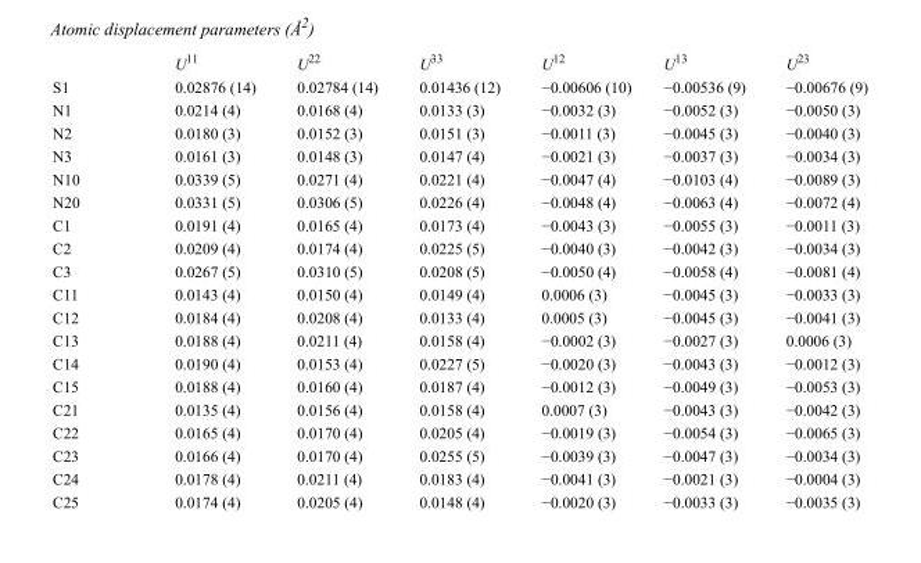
<table><thead><tr><td></td><td>U<sup>11</sup></td><td>U<sup>22</sup></td><td>U<sup>33</sup></td><td>U<sup>12</sup></td><td>U<sup>13</sup></td><td>U<sup>23</sup></td></tr></thead><tbody><tr><td>S1</td><td>0.02876 (14)</td><td>0.02784 (14)</td><td>0.01436 (12)</td><td>−0.00606 (10)</td><td>−0.00536 (9)</td><td>−0.00676 (9)</td></tr><tr><td>N1</td><td>0.0214 (4)</td><td>0.0168 (4)</td><td>0.0133 (3)</td><td>−0.0032 (3)</td><td>−0.0052 (3)</td><td>−0.0050 (3)</td></tr><tr><td>N2</td><td>0.0180 (3)</td><td>0.0152 (3)</td><td>0.0151 (3)</td><td>−0.0011 (3)</td><td>−0.0045 (3)</td><td>−0.0040 (3)</td></tr><tr><td>N3</td><td>0.0161 (3)</td><td>0.0148 (3)</td><td>0.0147 (4)</td><td>−0.0021 (3)</td><td>−0.0037 (3)</td><td>−0.0034 (3)</td></tr><tr><td>N10</td><td>0.0339 (5)</td><td>0.0271 (4)</td><td>0.0221 (4)</td><td>−0.0047 (4)</td><td>−0.0103 (4)</td><td>−0.0089 (3)</td></tr><tr><td>N20</td><td>0.0331 (5)</td><td>0.0306 (5)</td><td>0.0226 (4)</td><td>−0.0048 (4)</td><td>−0.0063 (4)</td><td>−0.0072 (4)</td></tr><tr><td>C1</td><td>0.0191 (4)</td><td>0.0165 (4)</td><td>0.0173 (4)</td><td>−0.0043 (3)</td><td>−0.0055 (3)</td><td>−0.0011 (3)</td></tr><tr><td>C2</td><td>0.0209 (4)</td><td>0.0174 (4)</td><td>0.0225 (5)</td><td>−0.0040 (3)</td><td>−0.0042 (3)</td><td>−0.0034 (3)</td></tr><tr><td>C3</td><td>0.0267 (5)</td><td>0.0310 (5)</td><td>0.0208 (5)</td><td>−0.0050 (4)</td><td>−0.0058 (4)</td><td>−0.0081 (4)</td></tr><tr><td>C11</td><td>0.0143 (4)</td><td>0.0150 (4)</td><td>0.0149 (4)</td><td>0.0006 (3)</td><td>−0.0045 (3)</td><td>−0.0033 (3)</td></tr><tr><td>C12</td><td>0.0184 (4)</td><td>0.0208 (4)</td><td>0.0133 (4)</td><td>0.0005 (3)</td><td>−0.0045 (3)</td><td>−0.0041 (3)</td></tr><tr><td>C13</td><td>0.0188 (4)</td><td>0.0211 (4)</td><td>0.0158 (4)</td><td>−0.0002 (3)</td><td>−0.0027 (3)</td><td>0.0006 (3)</td></tr><tr><td>C14</td><td>0.0190 (4)</td><td>0.0153 (4)</td><td>0.0227 (5)</td><td>−0.0020 (3)</td><td>−0.0043 (3)</td><td>−0.0012 (3)</td></tr><tr><td>C15</td><td>0.0188 (4)</td><td>0.0160 (4)</td><td>0.0187 (4)</td><td>−0.0012 (3)</td><td>−0.0049 (3)</td><td>−0.0053 (3)</td></tr><tr><td>C21</td><td>0.0135 (4)</td><td>0.0156 (4)</td><td>0.0158 (4)</td><td>0.0007 (3)</td><td>−0.0043 (3)</td><td>−0.0042 (3)</td></tr><tr><td>C22</td><td>0.0165 (4)</td><td>0.0170 (4)</td><td>0.0205 (4)</td><td>−0.0019 (3)</td><td>−0.0054 (3)</td><td>−0.0065 (3)</td></tr><tr><td>C23</td><td>0.0166 (4)</td><td>0.0170 (4)</td><td>0.0255 (5)</td><td>−0.0039 (3)</td><td>−0.0047 (3)</td><td>−0.0034 (3)</td></tr><tr><td>C24</td><td>0.0178 (4)</td><td>0.0211 (4)</td><td>0.0183 (4)</td><td>−0.0041 (3)</td><td>−0.0021 (3)</td><td>−0.0004 (3)</td></tr><tr><td>C25</td><td>0.0174 (4)</td><td>0.0205 (4)</td><td>0.0148 (4)</td><td>−0.0020 (3)</td><td>−0.0033 (3)</td><td>−0.0035 (3)</td></tr></tbody></table>